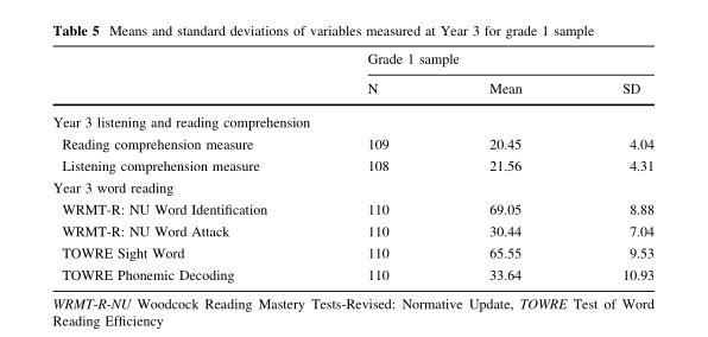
<table><thead><tr><td rowspan="2"></td><td colspan="3">Grade 1 sample</td></tr><tr><td>N</td><td>Mean</td><td>SD</td></tr></thead><tbody><tr><td colspan="4">Year 3 listening and reading comprehension</td></tr><tr><td>Reading comprehension measure</td><td>109</td><td>20.45</td><td>4.04</td></tr><tr><td>Listening comprehension measure</td><td>108</td><td>21.56</td><td>4.31</td></tr><tr><td colspan="4">Year 3 word reading</td></tr><tr><td>WRMT-R: NU Word Identification</td><td>110</td><td>69.05</td><td>8.88</td></tr><tr><td>WRMT-R: NU Word Attack</td><td>110</td><td>30.44</td><td>7.04</td></tr><tr><td>TOWRE Sight Word</td><td>110</td><td>65.55</td><td>9.53</td></tr><tr><td>TOWRE Phonemic Decoding</td><td>110</td><td>33.64</td><td>10.93</td></tr></tbody></table>